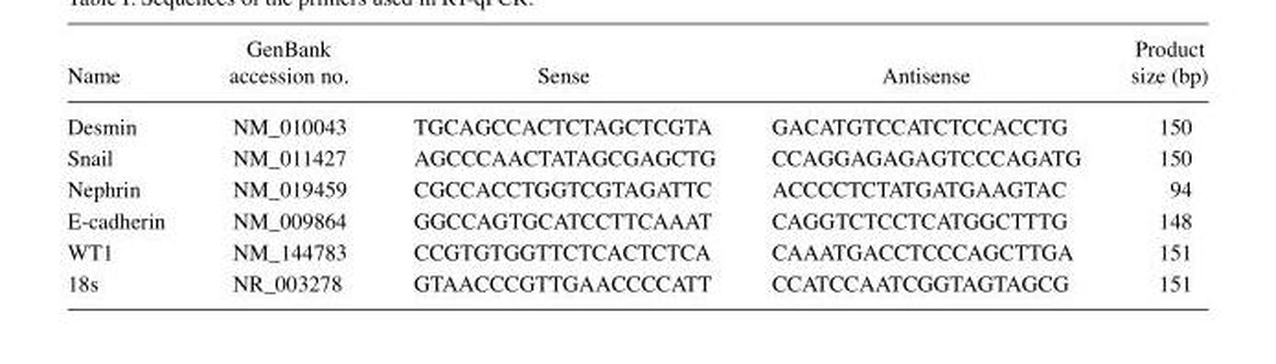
<table><thead><tr><td>Name</td><td>accession no.</td><td>Sense</td><td>Antisense</td><td>size (bp)</td></tr></thead><tbody><tr><td>Desmin</td><td>NM_010043</td><td>TGCAGCCACTCTAGCTCGTA</td><td>GACATGTCCATCTCCACCTG</td><td>150</td></tr><tr><td>Snail</td><td>NM_011427</td><td>AGCCCAACTATAGCGAGCTG</td><td>CCAGGAGAGAGTCCCAGATG</td><td>150</td></tr><tr><td>Nephrin</td><td>NM_019459</td><td>CGCCACCTGGTCGTAGATTC</td><td>ACCCCTCTATGATGAAGTAC</td><td>94</td></tr><tr><td>E-cadherin</td><td>NM_009864</td><td>GGCCAGTGCATCCTTCAAAT</td><td>CAGGTCTCCTCATGGCTTTG</td><td>148</td></tr><tr><td>WT1</td><td>NM_144783</td><td>CCGTGTGGTTCTCACTCTCA</td><td>CAAATGACCTCCCAGCTTGA</td><td>151</td></tr><tr><td>18s</td><td>NR_003278</td><td>GTAACCCGTTGAACCCCATT</td><td>CCATCCAATCGGTAGTAGCG</td><td>151</td></tr></tbody></table>